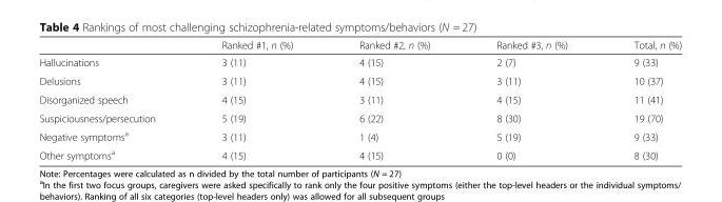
<table><thead><tr><td></td><td>Ranked #1, n (%)</td><td>Ranked #2, n (%)</td><td>Ranked #3, n (%)</td><td>Total, n (%)</td></tr></thead><tbody><tr><td>Hallucinations</td><td>3 (11)</td><td>4 (15)</td><td>2 (7)</td><td>9 (33)</td></tr><tr><td>Delusions</td><td>3 (11)</td><td>4 (15)</td><td>3 (11)</td><td>10 (37)</td></tr><tr><td>Disorganized speech</td><td>4 (15)</td><td>3 (11)</td><td>4 (15)</td><td>11 (41)</td></tr><tr><td>Suspiciousness/persecution</td><td>5 (19)</td><td>6 (22)</td><td>8 (30)</td><td>19 (70)</td></tr><tr><td>Negative symptoms<sup>a</sup></td><td>3 (11)</td><td>1 (4)</td><td>5 (19)</td><td>9 (33)</td></tr><tr><td>Other symptoms<sup>a</sup></td><td>4 (15)</td><td>4 (15)</td><td>0 (0)</td><td>8 (30)</td></tr></tbody></table>